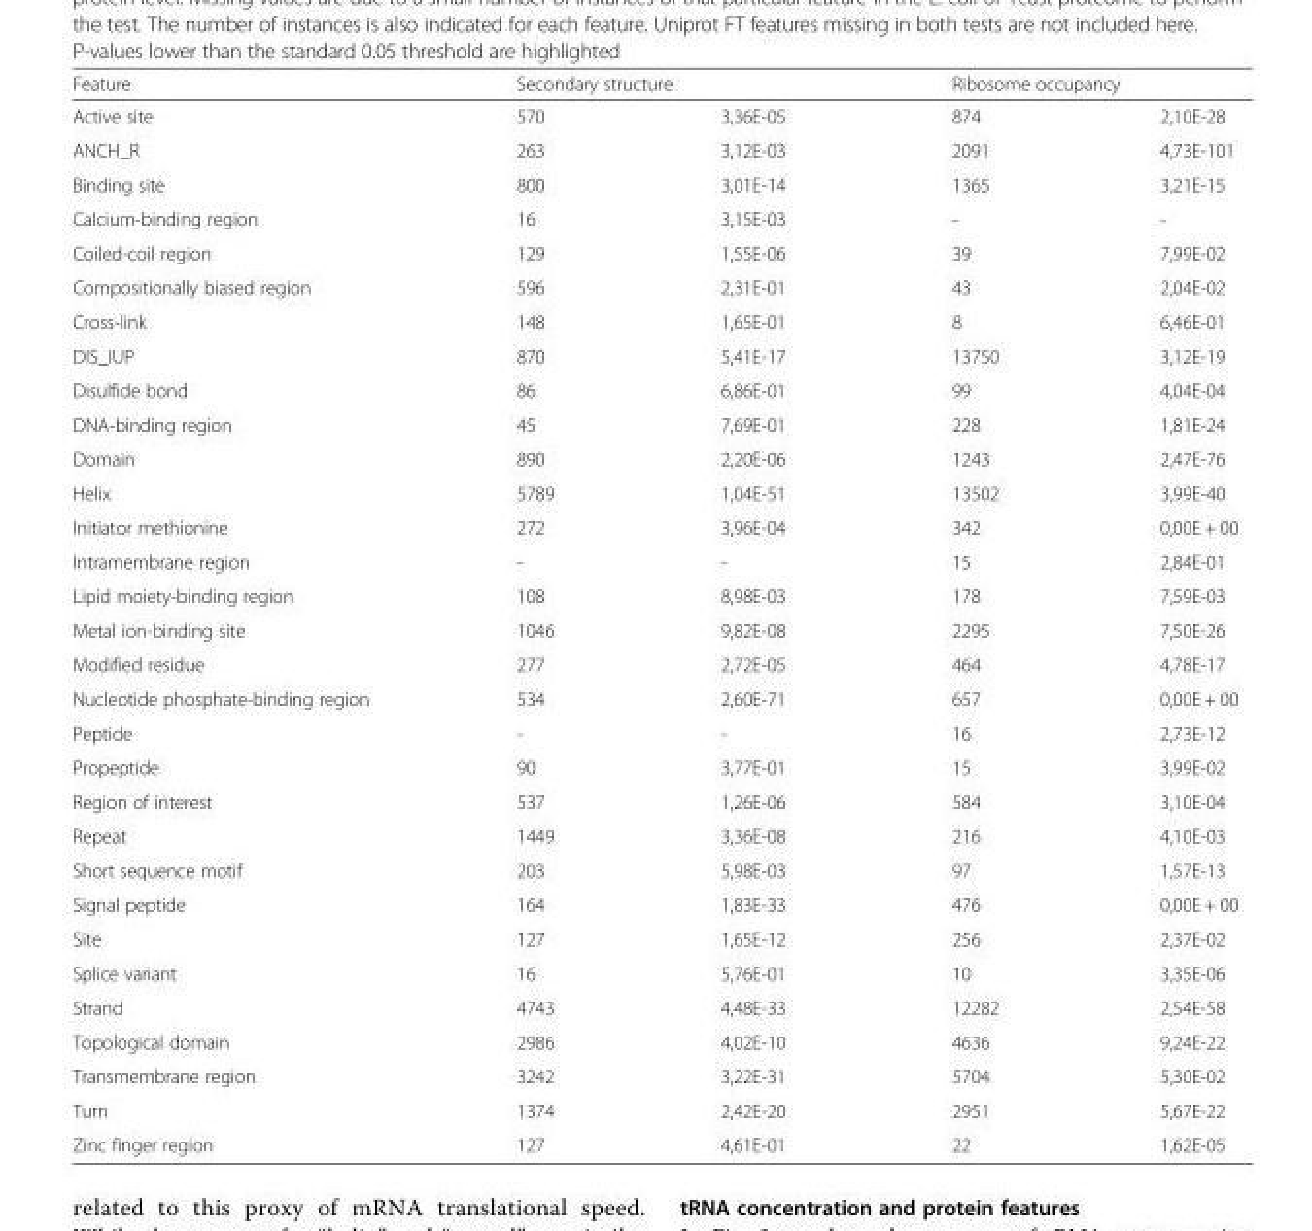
<table><thead><tr><td rowspan="2">Feature Active site</td><td colspan="2">Secondary structure</td><td colspan="2">Ribosome occupancy</td></tr><tr><td>570</td><td>3,36E-05</td><td>874</td><td>2,10E-28</td></tr></thead><tbody><tr><td>ANCH_R</td><td>263</td><td>3,12E-03</td><td>2091</td><td>4,73E-101</td></tr><tr><td>Binding site</td><td>800</td><td>3,01E-14</td><td>1365</td><td>3,21E-15</td></tr><tr><td>Calcium-binding region</td><td>16</td><td>3,15E-03</td><td>-</td><td>-</td></tr><tr><td>Coiled-coil region</td><td>129</td><td>1,55E-06</td><td>39</td><td>7,99E-02</td></tr><tr><td>Compositionally biased region</td><td>596</td><td>2,31E-01</td><td>43</td><td>2,04E-02</td></tr><tr><td>Cross-link</td><td>148</td><td>1,65E-01</td><td>8</td><td>6,46E-01</td></tr><tr><td>DIS_IUP</td><td>870</td><td>5,41E-17</td><td>13750</td><td>3,12E-19</td></tr><tr><td>Disulfide bond</td><td>86</td><td>6,86E-01</td><td>99</td><td>4,04E-04</td></tr><tr><td>DNA-binding region</td><td>45</td><td>7,69E-01</td><td>228</td><td>1,81E-24</td></tr><tr><td>Domain</td><td>890</td><td>2,20E-06</td><td>1243</td><td>2,47E-76</td></tr><tr><td>Helix</td><td>5789</td><td>1,04E-51</td><td>13502</td><td>3,99E-40</td></tr><tr><td>Initiator methionine</td><td>272</td><td>3,96E-04</td><td>342</td><td>0,00E + 00</td></tr><tr><td>Intramembrane region</td><td>-</td><td>-</td><td>15</td><td>2,84E-01</td></tr><tr><td>Lipid moiety-binding region</td><td>108</td><td>8,98E-03</td><td>178</td><td>7,59E-03</td></tr><tr><td>Metal ion-binding site</td><td>1046</td><td>9,82E-08</td><td>2295</td><td>7,50E-26</td></tr><tr><td>Modified residue</td><td>277</td><td>2,72E-05</td><td>464</td><td>4,78E-17</td></tr><tr><td>Nucleotide phosphate-binding region</td><td>534</td><td>2,60E-71</td><td>657</td><td>0,00E + 00</td></tr><tr><td>Peptide</td><td>-</td><td>-</td><td>16</td><td>2,73E-12</td></tr><tr><td>Propeptide</td><td>90</td><td>3,77E-01</td><td>15</td><td>3,99E-02</td></tr><tr><td>Region of interest</td><td>537</td><td>1,26E-06</td><td>584</td><td>3,10E-04</td></tr><tr><td>Repeat</td><td>1449</td><td>3,36E-08</td><td>216</td><td>4,10E-03</td></tr><tr><td>Short sequence motif</td><td>203</td><td>5,98E-03</td><td>97</td><td>1,57E-13</td></tr><tr><td>Signal peptide</td><td>164</td><td>1,83E-33</td><td>476</td><td>0,00E + 00</td></tr><tr><td>Site</td><td>127</td><td>1,65E-12</td><td>256</td><td>2,37E-02</td></tr><tr><td>Splice variant</td><td>16</td><td>5,76E-01</td><td>10</td><td>3,35E-06</td></tr><tr><td>Strand</td><td>4743</td><td>4,48E-33</td><td>12282</td><td>2,54E-58</td></tr><tr><td>Topological domain</td><td>2986</td><td>4,02E-10</td><td>4636</td><td>9,24E-22</td></tr><tr><td>Transmembrane region</td><td>3242</td><td>3,22E-31</td><td>5704</td><td>5,30E-02</td></tr><tr><td>Turn</td><td>1374</td><td>2,42E-20</td><td>2951</td><td>5,67E-22</td></tr><tr><td>Zinc finger region</td><td>127</td><td>4,61E-01</td><td>22</td><td>1,62E-05</td></tr></tbody></table>